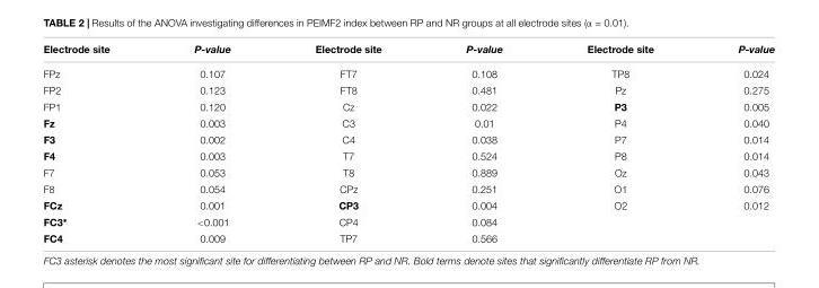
<table><thead><tr><td>Electrode site</td><td>P-value</td><td>Electrode site</td><td>P-value</td><td>Electrode site</td><td>P-value</td></tr></thead><tbody><tr><td>FPz</td><td>0.107</td><td>FT7</td><td>0.108</td><td>TP8</td><td>0.024</td></tr><tr><td>FP2</td><td>0.123</td><td>FT8</td><td>0.481</td><td>Pz</td><td>0.275</td></tr><tr><td>FP1</td><td>0.120</td><td>Cz</td><td>0.022</td><td>P3</td><td>0.005</td></tr><tr><td>Fz</td><td>0.003</td><td>C3</td><td>0.01</td><td>P4</td><td>0.040</td></tr><tr><td>F3</td><td>0.002</td><td>C4</td><td>0.038</td><td>P7</td><td>0.014</td></tr><tr><td>F4</td><td>0.003</td><td>T7</td><td>0.524</td><td>P8</td><td>0.014</td></tr><tr><td>F7</td><td>0.053</td><td>T8</td><td>0.889</td><td>Oz</td><td>0.043</td></tr><tr><td>F8</td><td>0.054</td><td>CPz</td><td>0.251</td><td>O1</td><td>0.076</td></tr><tr><td>FCz</td><td>0.001</td><td>CP3</td><td>0.004</td><td>O2</td><td>0.012</td></tr><tr><td>FC3∗</td><td>&lt;0.001</td><td>CP4</td><td>0.084</td><td></td><td></td></tr><tr><td>FC4</td><td>0.009</td><td>TP7</td><td>0.566</td><td></td><td></td></tr></tbody></table>